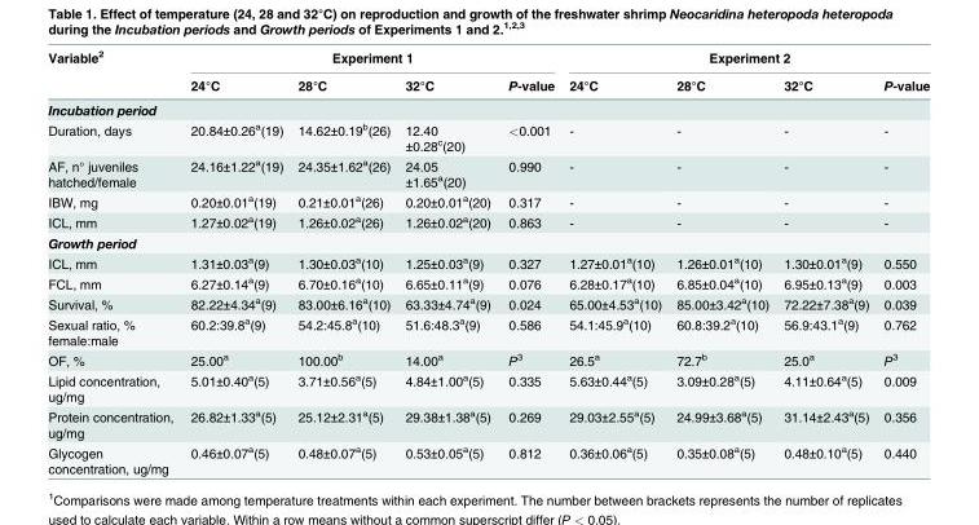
<table><thead><tr><td rowspan="2">Variable<sup>2</sup></td><td colspan="4">Experiment 1</td><td colspan="4">Experiment 2</td></tr><tr><td>24°C</td><td>28°C</td><td>32°C</td><td>P-value</td><td>24°C</td><td>28°C</td><td>32°C</td><td>P-value</td></tr></thead><tbody><tr><td colspan="9">Incubation period</td></tr><tr><td>Duration, days</td><td>20.84±0.26<sup>a</sup>(19)</td><td>14.62±0.19<sup>b</sup>(26)</td><td>12.40 ±0.28<sup>c</sup>(20)</td><td>&lt;0.001</td><td>-</td><td>-</td><td>-</td><td>-</td></tr><tr><td>AF, n° juveniles hatched/female</td><td>24.16±1.22<sup>a</sup>(19)</td><td>24.35±1.62<sup>a</sup>(26)</td><td>24.05 ±1.65<sup>a</sup>(20)</td><td>0.990</td><td>-</td><td>-</td><td>-</td><td>-</td></tr><tr><td>IBW, mg</td><td>0.20±0.01<sup>a</sup>(19)</td><td>0.21±0.01<sup>a</sup>(26)</td><td>0.20±0.01<sup>a</sup>(20)</td><td>0.317</td><td>-</td><td>-</td><td>-</td><td>-</td></tr><tr><td>ICL, mm</td><td>1.27±0.02<sup>a</sup>(19)</td><td>1.26±0.02<sup>a</sup>(26)</td><td>1.26±0.02<sup>a</sup>(20)</td><td>0.863</td><td>-</td><td>-</td><td>-</td><td>-</td></tr><tr><td colspan="9">Growth period</td></tr><tr><td>ICL, mm</td><td>1.31±0.03<sup>a</sup>(9)</td><td>1.30±0.03<sup>a</sup>(10)</td><td>1.25±0.03<sup>a</sup>(9)</td><td>0.327</td><td>1.27±0.01<sup>a</sup>(10)</td><td>1.26±0.01<sup>a</sup>(10)</td><td>1.30±0.01<sup>a</sup>(9)</td><td>0.550</td></tr><tr><td>FCL, mm</td><td>6.27±0.14<sup>a</sup>(9)</td><td>6.70±0.16<sup>a</sup>(10)</td><td>6.65±0.11<sup>a</sup>(9)</td><td>0.076</td><td>6.28±0.17<sup>a</sup>(10)</td><td>6.85±0.04<sup>a</sup>(10)</td><td>6.95±0.13<sup>a</sup>(9)</td><td>0.003</td></tr><tr><td>Survival, %</td><td>82.22±4.34<sup>a</sup>(9)</td><td>83.00±6.16<sup>a</sup>(10)</td><td>63.33±4.74<sup>a</sup>(9)</td><td>0.024</td><td>65.00±4.53<sup>a</sup>(10)</td><td>85.00±3.42<sup>a</sup>(10)</td><td>72.22±7.38<sup>a</sup>(9)</td><td>0.039</td></tr><tr><td>Sexual ratio, % female:male</td><td>60.2:39.8<sup>a</sup>(9)</td><td>54.2:45.8<sup>a</sup>(10)</td><td>51.6:48.3<sup>a</sup>(9)</td><td>0.586</td><td>54.1:45.9<sup>a</sup>(10)</td><td>60.8:39.2<sup>a</sup>(10)</td><td>56.9:43.1<sup>a</sup>(9)</td><td>0.762</td></tr><tr><td>OF, %</td><td>25.00<sup>a</sup></td><td>100.00<sup>b</sup></td><td>14.00<sup>a</sup></td><td>P<sup>3</sup></td><td>26.5<sup>a</sup></td><td>72.7<sup>b</sup></td><td>25.0<sup>a</sup></td><td>P<sup>3</sup></td></tr><tr><td>Lipid concentration, ug/mg</td><td>5.01±0.40<sup>a</sup>(5)</td><td>3.71±0.56<sup>a</sup>(5)</td><td>4.84±1.00<sup>a</sup>(5)</td><td>0.335</td><td>5.63±0.44<sup>a</sup>(5)</td><td>3.09±0.28<sup>a</sup>(5)</td><td>4.11±0.64<sup>a</sup>(5)</td><td>0.009</td></tr><tr><td>Protein concentration, ug/mg</td><td>26.82±1.33<sup>a</sup>(5)</td><td>25.12±2.31<sup>a</sup>(5)</td><td>29.38±1.38<sup>a</sup>(5)</td><td>0.269</td><td>29.03±2.55<sup>a</sup>(5)</td><td>24.99±3.68<sup>a</sup>(5)</td><td>31.14±2.43<sup>a</sup>(5)</td><td>0.356</td></tr><tr><td>Glycogen concentration, ug/mg</td><td>0.46±0.07<sup>a</sup>(5)</td><td>0.48±0.07<sup>a</sup>(5)</td><td>0.53±0.05<sup>a</sup>(5)</td><td>0.812</td><td>0.36±0.06<sup>a</sup>(5)</td><td>0.35±0.08<sup>a</sup>(5)</td><td>0.48±0.10<sup>a</sup>(5)</td><td>0.440</td></tr></tbody></table>